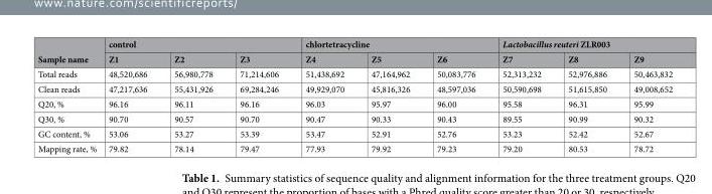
<table><thead><tr><td rowspan="2">Sample name</td><td colspan="3">control</td><td colspan="3">chlortetracycline</td><td colspan="3">Lactobacillus reuteri ZLR003</td></tr><tr><td>Z1</td><td>Z2</td><td>Z3</td><td>Z4</td><td>Z5</td><td>Z6</td><td>Z7</td><td>Z8</td><td>Z9</td></tr></thead><tbody><tr><td>Total reads</td><td>48,520,686</td><td>56,980,778</td><td>71,214,606</td><td>51,438,692</td><td>47,164,962</td><td>50,083,776</td><td>52,313,232</td><td>52,976,886</td><td>50,463,832</td></tr><tr><td>Clean reads</td><td>47,217,636</td><td>55,431,926</td><td>69,284,246</td><td>49,929,070</td><td>45,816,326</td><td>48,597,036</td><td>50,590,698</td><td>51,615,850</td><td>49,008,652</td></tr><tr><td>Q20, %</td><td>96.16</td><td>96.11</td><td>96.16</td><td>96.03</td><td>95.97</td><td>96.00</td><td>95.58</td><td>96.31</td><td>95.99</td></tr><tr><td>Q30, %</td><td>90.70</td><td>90.57</td><td>90.70</td><td>90.47</td><td>90.33</td><td>90.43</td><td>89.55</td><td>90.99</td><td>90.32</td></tr><tr><td>GC content, %</td><td>53.06</td><td>53.27</td><td>53.39</td><td>53.47</td><td>52.91</td><td>52.76</td><td>53.23</td><td>52.42</td><td>52.67</td></tr><tr><td>Mapping rate, %</td><td>79.82</td><td>78.14</td><td>79.47</td><td>77.93</td><td>79.92</td><td>79.23</td><td>79.20</td><td>80.53</td><td>78.72</td></tr></tbody></table>